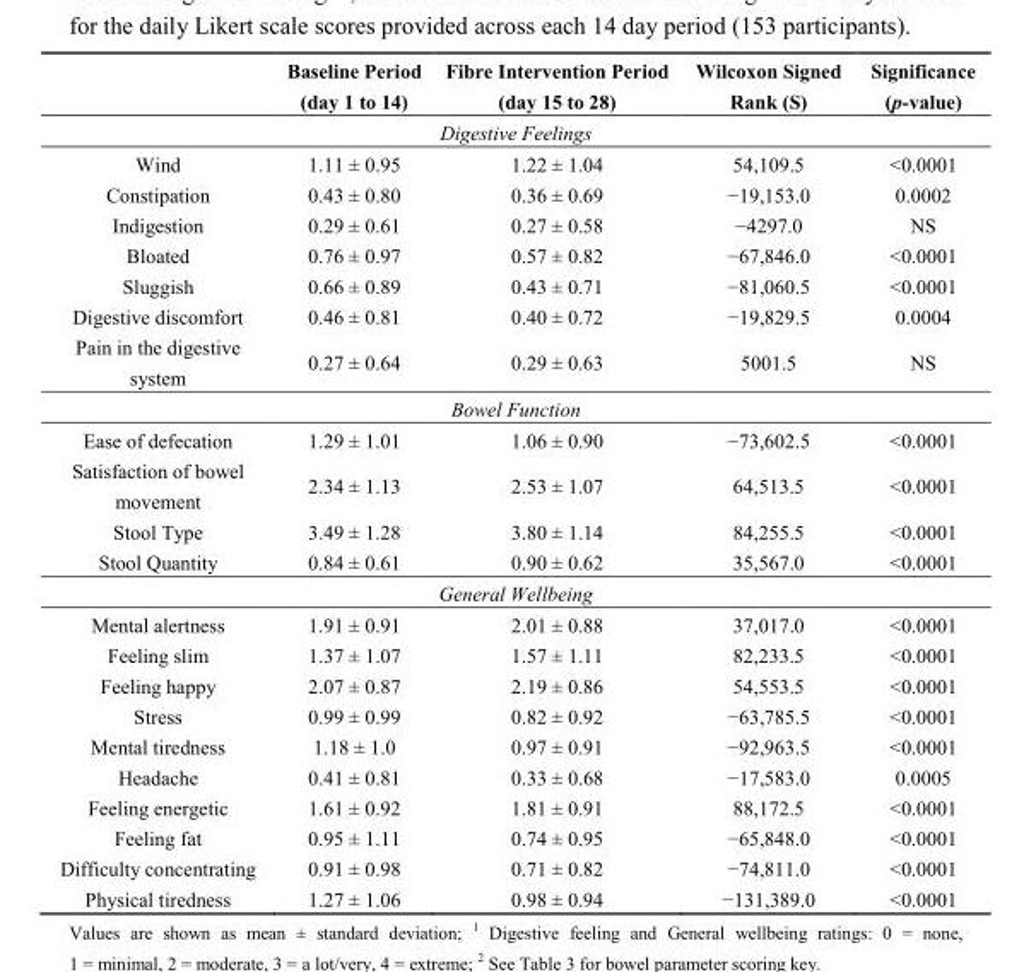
<table><thead><tr><td></td><td>Baseline Period (day 1 to 14)</td><td>Fibre Intervention Period (day 15 to 28)</td><td>Wilcoxon Signed Rank (S)</td><td>Significance (p-value)</td></tr></thead><tbody><tr><td colspan="5">Digestive Feelings</td></tr><tr><td>Wind</td><td>1.11 ± 0.95</td><td>1.22 ± 1.04</td><td>54,109.5</td><td>&lt;0.0001</td></tr><tr><td>Constipation</td><td>0.43 ± 0.80</td><td>0.36 ± 0.69</td><td>−19,153.0</td><td>0.0002</td></tr><tr><td>Indigestion</td><td>0.29 ± 0.61</td><td>0.27 ± 0.58</td><td>−4297.0</td><td>NS</td></tr><tr><td>Bloated</td><td>0.76 ± 0.97</td><td>0.57 ± 0.82</td><td>−67,846.0</td><td>&lt;0.0001</td></tr><tr><td>Sluggish</td><td>0.66 ± 0.89</td><td>0.43 ± 0.71</td><td>−81,060.5</td><td>&lt;0.0001</td></tr><tr><td>Digestive discomfort</td><td>0.46 ± 0.81</td><td>0.40 ± 0.72</td><td>−19,829.5</td><td>0.0004</td></tr><tr><td>Pain in the digestive system</td><td>0.27 ± 0.64</td><td>0.29 ± 0.63</td><td>5001.5</td><td>NS</td></tr><tr><td colspan="5">Bowel Function</td></tr><tr><td>Ease of defecation</td><td>1.29 ± 1.01</td><td>1.06 ± 0.90</td><td>−73,602.5</td><td>&lt;0.0001</td></tr><tr><td>Satisfaction of bowel movement</td><td>2.34 ± 1.13</td><td>2.53 ± 1.07</td><td>64,513.5</td><td>&lt;0.0001</td></tr><tr><td>Stool Type</td><td>3.49 ± 1.28</td><td>3.80 ± 1.14</td><td>84,255.5</td><td>&lt;0.0001</td></tr><tr><td>Stool Quantity</td><td>0.84 ± 0.61</td><td>0.90 ± 0.62</td><td>35,567.0</td><td>&lt;0.0001</td></tr><tr><td colspan="5">General Wellbeing</td></tr><tr><td>Mental alertness</td><td>1.91 ± 0.91</td><td>2.01 ± 0.88</td><td>37,017.0</td><td>&lt;0.0001</td></tr><tr><td>Feeling slim</td><td>1.37 ± 1.07</td><td>1.57 ± 1.11</td><td>82,233.5</td><td>&lt;0.0001</td></tr><tr><td>Feeling happy</td><td>2.07 ± 0.87</td><td>2.19 ± 0.86</td><td>54,553.5</td><td>&lt;0.0001</td></tr><tr><td>Stress</td><td>0.99 ± 0.99</td><td>0.82 ± 0.92</td><td>−63,785.5</td><td>&lt;0.0001</td></tr><tr><td>Mental tiredness</td><td>1.18 ± 1.0</td><td>0.97 ± 0.91</td><td>−92,963.5</td><td>&lt;0.0001</td></tr><tr><td>Headache</td><td>0.41 ± 0.81</td><td>0.33 ± 0.68</td><td>−17,583.0</td><td>0.0005</td></tr><tr><td>Feeling energetic</td><td>1.61 ± 0.92</td><td>1.81 ± 0.91</td><td>88,172.5</td><td>&lt;0.0001</td></tr><tr><td>Feeling fat</td><td>0.95 ± 1.11</td><td>0.74 ± 0.95</td><td>−65,848.0</td><td>&lt;0.0001</td></tr><tr><td>Difficulty concentrating</td><td>0.91 ± 0.98</td><td>0.71 ± 0.82</td><td>−74,811.0</td><td>&lt;0.0001</td></tr><tr><td>Physical tiredness</td><td>1.27 ± 1.06</td><td>0.98 ± 0.94</td><td>−131,389.0</td><td>&lt;0.0001</td></tr></tbody></table>